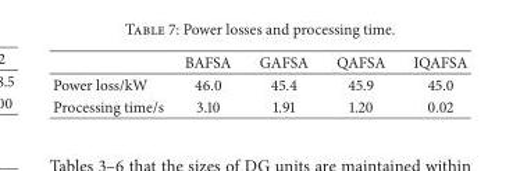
<table><thead><tr><td></td><td>BAFSA</td><td>GAFSA</td><td>QAFSA</td><td>IQAFSA</td></tr></thead><tbody><tr><td>Power loss/kW</td><td>46.0</td><td>45.4</td><td>45.9</td><td>45.0</td></tr><tr><td>Processing time/s</td><td>3.10</td><td>1.91</td><td>1.20</td><td>0.02</td></tr></tbody></table>